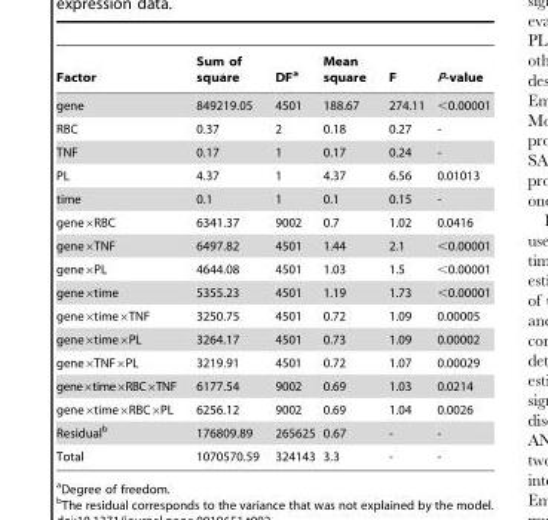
<table><thead><tr><td>Factor</td><td>Sum of square</td><td>DF<sup>a</sup></td><td>Mean square</td><td>F</td><td>P-value</td></tr></thead><tbody><tr><td>gene</td><td>849219.05</td><td>4501</td><td>188.67</td><td>274.11</td><td>&lt;0.00001</td></tr><tr><td>RBC</td><td>0.37</td><td>2</td><td>0.18</td><td>0.27</td><td>-</td></tr><tr><td>TNF</td><td>0.17</td><td>1</td><td>0.17</td><td>0.24</td><td>-</td></tr><tr><td>PL</td><td>4.37</td><td>1</td><td>4.37</td><td>6.56</td><td>0.01013</td></tr><tr><td>time</td><td>0.1</td><td>1</td><td>0.1</td><td>0.15</td><td>-</td></tr><tr><td>gene×RBC</td><td>6341.37</td><td>9002</td><td>0.7</td><td>1.02</td><td>0.0416</td></tr><tr><td>gene×TNF</td><td>6497.82</td><td>4501</td><td>1.44</td><td>2.1</td><td>&lt;0.00001</td></tr><tr><td>gene×PL</td><td>4644.08</td><td>4501</td><td>1.03</td><td>1.5</td><td>&lt;0.00001</td></tr><tr><td>gene×time</td><td>5355.23</td><td>4501</td><td>1.19</td><td>1.73</td><td>&lt;0.00001</td></tr><tr><td>gene×time×TNF</td><td>3250.75</td><td>4501</td><td>0.72</td><td>1.09</td><td>0.00005</td></tr><tr><td>gene×time×PL</td><td>3264.17</td><td>4501</td><td>0.73</td><td>1.09</td><td>0.00002</td></tr><tr><td>gene×TNF×PL</td><td>3219.91</td><td>4501</td><td>0.72</td><td>1.07</td><td>0.00029</td></tr><tr><td>gene×time×RBC×TNF</td><td>6177.54</td><td>9002</td><td>0.69</td><td>1.03</td><td>0.0214</td></tr><tr><td>gene×time×RBC×PL</td><td>6256.12</td><td>9002</td><td>0.69</td><td>1.04</td><td>0.0026</td></tr><tr><td>Residual<sup>b</sup></td><td>176809.89</td><td>265625</td><td>0.67</td><td>-</td><td>-</td></tr><tr><td>Total</td><td>1070570.59</td><td>324143</td><td>3.3</td><td>-</td><td>-</td></tr></tbody></table>